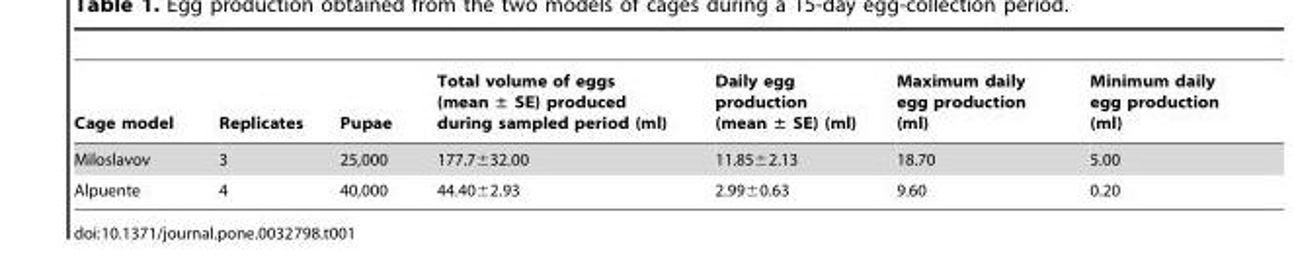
<table><thead><tr><td>Cage model</td><td>Replicates</td><td>Pupae</td><td>Total volume of eggs (mean ± SE) produced during sampled period (ml)</td><td>Daily egg production (mean ± SE) (ml)</td><td>Maximum daily egg production (ml)</td><td>Minimum daily egg production (ml)</td></tr></thead><tbody><tr><td>Miloslavov</td><td>3</td><td>25,000</td><td>177.7±32.00</td><td>11.85±2.13</td><td>18.70</td><td>5.00</td></tr><tr><td>Alpuente</td><td>4</td><td>40,000</td><td>44.40±2.93</td><td>2.99±0.63</td><td>9.60</td><td>0.20</td></tr></tbody></table>